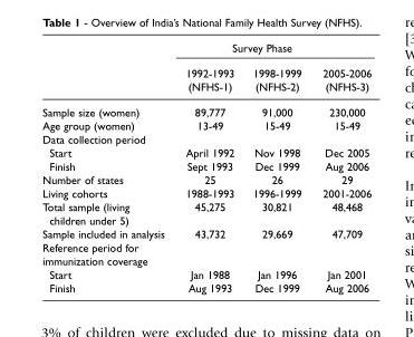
<table><thead><tr><td rowspan="3"></td><td colspan="3">Survey Phase</td></tr><tr><td rowspan="2">1992-1993 (NFHS-1)</td><td rowspan="2">1998-1999 (NFHS-2)</td><td rowspan="2">2005-2006 (NFHS-3)</td></tr><tr></tr></thead><tbody><tr><td>Sample size (women)</td><td>89,777</td><td>91,000</td><td>230,000</td></tr><tr><td>Age group (women)</td><td>13-49</td><td>15-49</td><td>15-49</td></tr><tr><td colspan="4">Data collection period</td></tr><tr><td>Start</td><td>April 1992</td><td>Nov 1998</td><td>Dec 2005</td></tr><tr><td>Finish</td><td>Sept 1993</td><td>Dec 1999</td><td>Aug 2006</td></tr><tr><td>Number of states</td><td>25</td><td>26</td><td>29</td></tr><tr><td>Living cohorts</td><td>1988-1993</td><td>1996-1999</td><td>2001-2006</td></tr><tr><td>Total sample (living</td><td>45,275</td><td>30,821</td><td>48,468</td></tr><tr><td colspan="4">children under 5)</td></tr><tr><td>Sample included in analysis</td><td>43,732</td><td>29,669</td><td>47,709</td></tr><tr><td colspan="4">Reference period for</td></tr><tr><td colspan="4">immunization coverage</td></tr><tr><td>Start</td><td>Jan 1988</td><td>Jan 1996</td><td>Jan 2001</td></tr><tr><td>Finish</td><td>Aug 1993</td><td>Dec 1999</td><td>Aug 2006</td></tr></tbody></table>